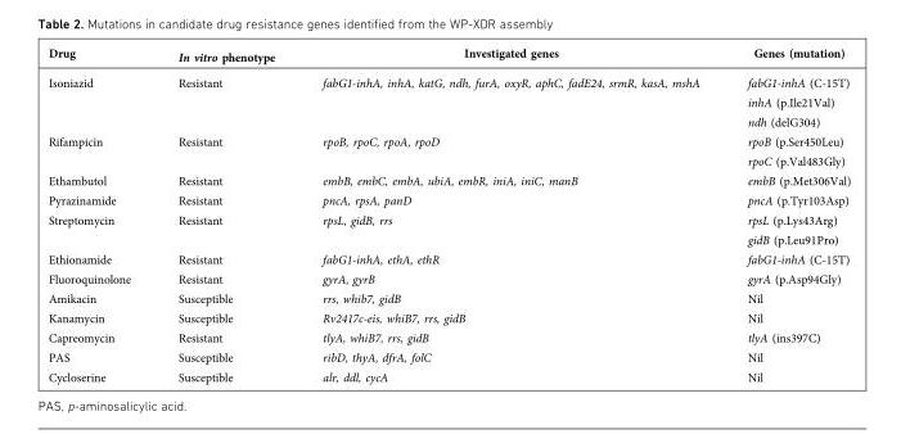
<table><thead><tr><td>Drug</td><td>In vitro phenotype</td><td>Investigated genes</td><td>Genes (mutation)</td></tr></thead><tbody><tr><td rowspan="3">Isoniazid</td><td rowspan="3">Resistant</td><td rowspan="3">fabG1-inhA, inhA, katG, ndh, furA, oxyR, aphC, fadE24, srmR, kasA, mshA</td><td>fabG1-inhA (C-15T)</td></tr><tr><td>inhA (p.Ile21Val)</td></tr><tr><td>ndh (delG304)</td></tr><tr><td rowspan="2">Rifampicin</td><td rowspan="2">Resistant</td><td rowspan="2">rpoB, rpoC, rpoA, rpoD</td><td>rpoB (p.Ser450Leu)</td></tr><tr><td>rpoC (p.Val483Gly)</td></tr><tr><td>Ethambutol</td><td>Resistant</td><td>embB, embC, embA, ubiA, embR, iniA, iniC, manB</td><td>embB (p.Met306Val)</td></tr><tr><td>Pyrazinamide</td><td>Resistant</td><td>pncA, rpsA, panD</td><td>pncA (p.Tyr103Asp)</td></tr><tr><td rowspan="2">Streptomycin</td><td rowspan="2">Resistant</td><td rowspan="2">rpsL, gidB, rrs</td><td>rpsL (p.Lys43Arg)</td></tr><tr><td>gidB (p.Leu91Pro)</td></tr><tr><td>Ethionamide</td><td>Resistant</td><td>fabG1-inhA, ethA, ethR</td><td>fabG1-inhA (C-15T)</td></tr><tr><td>Fluoroquinolone</td><td>Resistant</td><td>gyrA, gyrB</td><td>gyrA (p.Asp94Gly)</td></tr><tr><td>Amikacin</td><td>Susceptible</td><td>rrs, whib7, gidB</td><td>Nil</td></tr><tr><td>Kanamycin</td><td>Susceptible</td><td>Rv2417c-eis, whiB7, rrs, gidB</td><td>Nil</td></tr><tr><td>Capreomycin</td><td>Resistant</td><td>tlyA, whiB7, rrs, gidB</td><td>tlyA (ins397C)</td></tr><tr><td>PAS</td><td>Susceptible</td><td>ribD, thyA, dfrA, folC</td><td>Nil</td></tr><tr><td>Cycloserine</td><td>Susceptible</td><td>alr, ddl, cycA</td><td>Nil</td></tr></tbody></table>